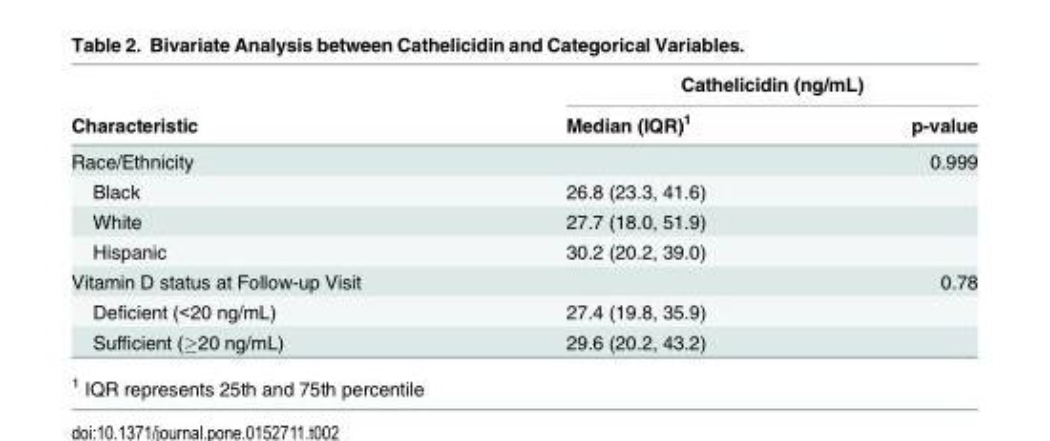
<table><thead><tr><td rowspan="2">Characteristic</td><td colspan="2">Cathelicidin (ng/mL)</td></tr><tr><td>Median (IQR)<sup>1</sup></td><td>p-value</td></tr></thead><tbody><tr><td>Race/Ethnicity</td><td></td><td>0.999</td></tr><tr><td>Black</td><td>26.8 (23.3, 41.6)</td><td></td></tr><tr><td>White</td><td>27.7 (18.0, 51.9)</td><td></td></tr><tr><td>Hispanic</td><td>30.2 (20.2, 39.0)</td><td></td></tr><tr><td>Vitamin D status at Follow-up Visit</td><td></td><td>0.78</td></tr><tr><td>Deficient (&lt;20 ng/mL)</td><td>27.4 (19.8, 35.9)</td><td></td></tr><tr><td>Sufficient (≥20 ng/mL)</td><td>29.6 (20.2, 43.2)</td><td></td></tr></tbody></table>